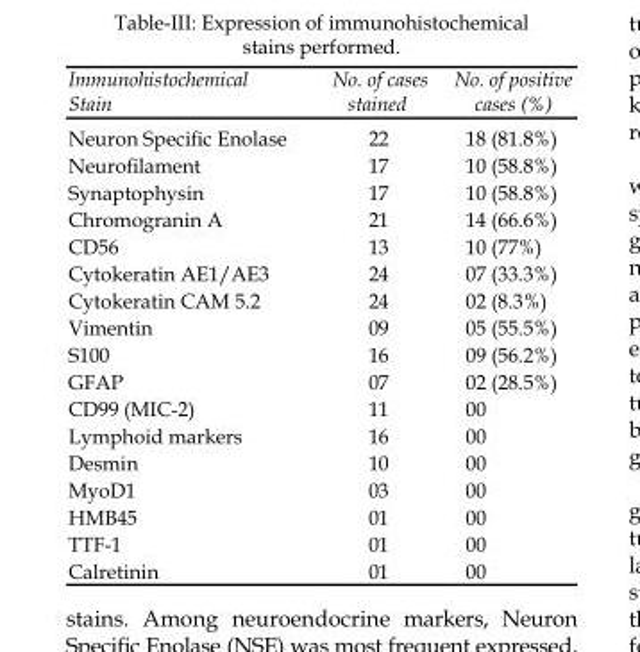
<table><thead><tr><td>Immunohistochemical Stain</td><td>No. of cases stained</td><td>No. of positive cases (%)</td></tr></thead><tbody><tr><td>Neuron Specific Enolase</td><td>22</td><td>18 (81.8%)</td></tr><tr><td>Neurofilament</td><td>17</td><td>10 (58.8%)</td></tr><tr><td>Synaptophysin</td><td>17</td><td>10 (58.8%)</td></tr><tr><td>Chromogranin A</td><td>21</td><td>14 (66.6%)</td></tr><tr><td>CD56</td><td>13</td><td>10 (77%)</td></tr><tr><td>Cytokeratin AE1/AE3</td><td>24</td><td>07 (33.3%)</td></tr><tr><td>Cytokeratin CAM 5.2</td><td>24</td><td>02 (8.3%)</td></tr><tr><td>Vimentin</td><td>09</td><td>05 (55.5%)</td></tr><tr><td>S100</td><td>16</td><td>09 (56.2%)</td></tr><tr><td>GFAP</td><td>07</td><td>02 (28.5%)</td></tr><tr><td>CD99 (MIC-2)</td><td>11</td><td>00</td></tr><tr><td>Lymphoid markers</td><td>16</td><td>00</td></tr><tr><td>Desmin</td><td>10</td><td>00</td></tr><tr><td>MyoD1</td><td>03</td><td>00</td></tr><tr><td>HMB45</td><td>01</td><td>00</td></tr><tr><td>TTF-1</td><td>01</td><td>00</td></tr><tr><td>Calretinin</td><td>01</td><td>00</td></tr></tbody></table>